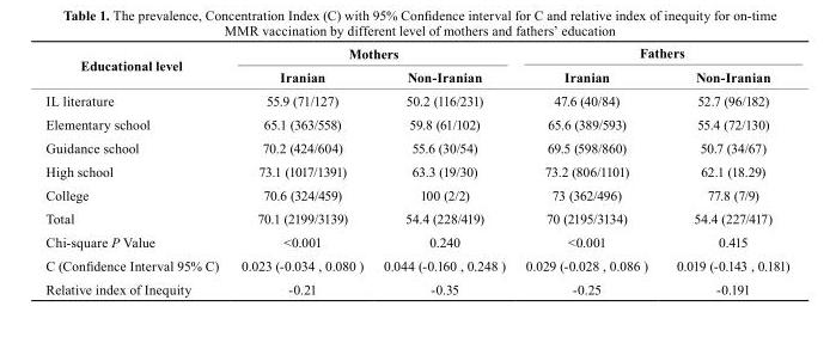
<table><thead><tr><td rowspan="2">Educational level</td><td colspan="2">Mothers</td><td colspan="2">Fathers</td></tr><tr><td>Iranian</td><td>Non-Iranian</td><td>Iranian</td><td>Non-Iranian</td></tr></thead><tbody><tr><td>IL literature</td><td>55.9 (71/127)</td><td>50.2 (116/231)</td><td>47.6 (40/84)</td><td>52.7 (96/182)</td></tr><tr><td>Elementary school</td><td>65.1 (363/558)</td><td>59.8 (61/102)</td><td>65.6 (389/593)</td><td>55.4 (72/130)</td></tr><tr><td>Guidance school</td><td>70.2 (424/604)</td><td>55.6 (30/54)</td><td>69.5 (598/860)</td><td>50.7 (34/67)</td></tr><tr><td>High school</td><td>73.1 (1017/1391)</td><td>63.3 (19/30)</td><td>73.2 (806/1101)</td><td>62.1 (18.29)</td></tr><tr><td>College</td><td>70.6 (324/459)</td><td>100 (2/2)</td><td>73 (362/496)</td><td>77.8 (7/9)</td></tr><tr><td>Total</td><td>70.1 (2199/3139)</td><td>54.4 (228/419)</td><td>70 (2195/3134)</td><td>54.4 (227/417)</td></tr><tr><td>Chi-square P Value</td><td>&lt;0.001</td><td>0.240</td><td>&lt;0.001</td><td>0.415</td></tr><tr><td>C (Confidence Interval 95% C)</td><td>0.023 (-0.034 , 0.080 )</td><td>0.044 (-0.160 , 0.248 )</td><td>0.029 (-0.028 , 0.086 )</td><td>0.019 (-0.143 , 0.181)</td></tr><tr><td>Relative index of Inequity</td><td>-0.21</td><td>-0.35</td><td>-0.25</td><td>-0.191</td></tr></tbody></table>